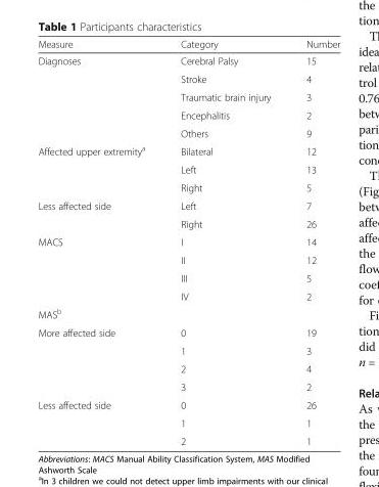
<table><thead><tr><td>Measure</td><td>Category</td><td>Number</td></tr></thead><tbody><tr><td rowspan="5">Diagnoses</td><td>Cerebral Palsy</td><td>15</td></tr><tr><td>Stroke</td><td>4</td></tr><tr><td>Traumatic brain injury</td><td>3</td></tr><tr><td>Encephalitis</td><td>2</td></tr><tr><td>Others</td><td>9</td></tr><tr><td rowspan="3">Affected upper extremity<sup>a</sup></td><td>Bilateral</td><td>12</td></tr><tr><td>Left</td><td>13</td></tr><tr><td>Right</td><td>5</td></tr><tr><td rowspan="2">Less affected side</td><td>Left</td><td>7</td></tr><tr><td>Right</td><td>26</td></tr><tr><td rowspan="4">MACS</td><td>I</td><td>14</td></tr><tr><td>II</td><td>12</td></tr><tr><td>III</td><td>5</td></tr><tr><td>IV</td><td>2</td></tr><tr><td colspan="3">MAS<sup>b</sup></td></tr><tr><td rowspan="4">More affected side</td><td>0</td><td>19</td></tr><tr><td>1</td><td>3</td></tr><tr><td>2</td><td>4</td></tr><tr><td>3</td><td>2</td></tr><tr><td rowspan="3">Less affected side</td><td>0</td><td>26</td></tr><tr><td>1</td><td>1</td></tr><tr><td>2</td><td>1</td></tr></tbody></table>